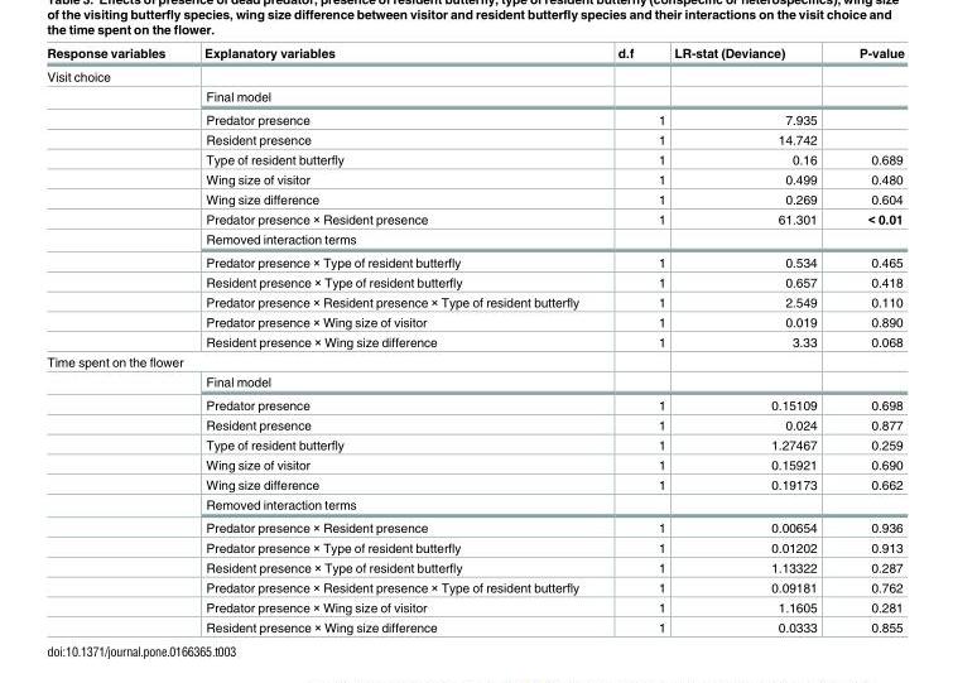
<table><thead><tr><td>Response variables</td><td>Explanatory variables</td><td>d.f</td><td>LR-stat (Deviance)</td><td>P-value</td></tr></thead><tbody><tr><td colspan="5">Visit choice</td></tr><tr><td></td><td>Final model</td><td></td><td></td><td></td></tr><tr><td></td><td>Predator presence</td><td>1</td><td>7.935</td><td></td></tr><tr><td></td><td>Resident presence</td><td>1</td><td>14.742</td><td></td></tr><tr><td></td><td>Type of resident butterfly</td><td>1</td><td>0.16</td><td>0.689</td></tr><tr><td></td><td>Wing size of visitor</td><td>1</td><td>0.499</td><td>0.480</td></tr><tr><td></td><td>Wing size difference</td><td>1</td><td>0.269</td><td>0.604</td></tr><tr><td></td><td>Predator presence × Resident presence</td><td>1</td><td>61.301</td><td>&lt; 0.01</td></tr><tr><td></td><td>Removed interaction terms</td><td></td><td></td><td></td></tr><tr><td></td><td>Predator presence × Type of resident butterfly</td><td>1</td><td>0.534</td><td>0.465</td></tr><tr><td></td><td>Resident presence × Type of resident butterfly</td><td>1</td><td>0.657</td><td>0.418</td></tr><tr><td></td><td>Predator presence × Resident presence × Type of resident butterfly</td><td>1</td><td>2.549</td><td>0.110</td></tr><tr><td></td><td>Predator presence × Wing size of visitor</td><td>1</td><td>0.019</td><td>0.890</td></tr><tr><td></td><td>Resident presence × Wing size difference</td><td>1</td><td>3.33</td><td>0.068</td></tr><tr><td colspan="5">Time spent on the flower</td></tr><tr><td></td><td>Final model</td><td></td><td></td><td></td></tr><tr><td></td><td>Predator presence</td><td>1</td><td>0.15109</td><td>0.698</td></tr><tr><td></td><td>Resident presence</td><td>1</td><td>0.024</td><td>0.877</td></tr><tr><td></td><td>Type of resident butterfly</td><td>1</td><td>1.27467</td><td>0.259</td></tr><tr><td></td><td>Wing size of visitor</td><td>1</td><td>0.15921</td><td>0.690</td></tr><tr><td></td><td>Wing size difference</td><td>1</td><td>0.19173</td><td>0.662</td></tr><tr><td></td><td>Removed interaction terms</td><td></td><td></td><td></td></tr><tr><td></td><td>Predator presence × Resident presence</td><td>1</td><td>0.00654</td><td>0.936</td></tr><tr><td></td><td>Predator presence × Type of resident butterfly</td><td>1</td><td>0.01202</td><td>0.913</td></tr><tr><td></td><td>Resident presence × Type of resident butterfly</td><td>1</td><td>1.13322</td><td>0.287</td></tr><tr><td></td><td>Predator presence × Resident presence × Type of resident butterfly</td><td>1</td><td>0.09181</td><td>0.762</td></tr><tr><td></td><td>Predator presence × Wing size of visitor</td><td>1</td><td>1.1605</td><td>0.281</td></tr><tr><td></td><td>Resident presence × Wing size difference</td><td>1</td><td>0.0333</td><td>0.855</td></tr></tbody></table>